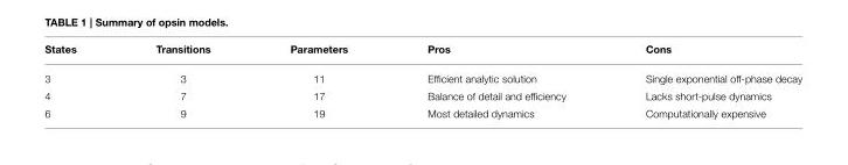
<table><thead><tr><td>States</td><td>Transitions</td><td>Parameters</td><td>Pros</td><td>Cons</td></tr></thead><tbody><tr><td>3</td><td>3</td><td>11</td><td>Efficient analytic solution</td><td>Single exponential off-phase decay</td></tr><tr><td>4</td><td>7</td><td>17</td><td>Balance of detail and efficiency</td><td>Lacks short-pulse dynamics</td></tr><tr><td>6</td><td>9</td><td>19</td><td>Most detailed dynamics</td><td>Computationally expensive</td></tr></tbody></table>